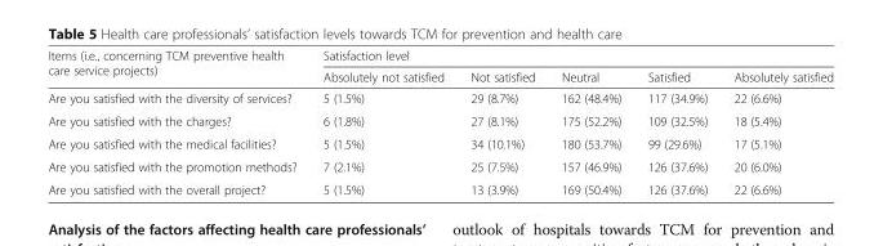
<table><thead><tr><td rowspan="2">Items (i.e., concerning TCM preventive health care service projects)</td><td colspan="5">Satisfaction level</td></tr><tr><td>Absolutely not satisfied</td><td>Not satisfied</td><td>Neutral</td><td>Satisfied</td><td>Absolutely satisfied</td></tr></thead><tbody><tr><td>Are you satisfied with the diversity of services?</td><td>5 (1.5%)</td><td>29 (8.7%)</td><td>162 (48.4%)</td><td>117 (34.9%)</td><td>22 (6.6%)</td></tr><tr><td>Are you satisfied with the charges?</td><td>6 (1.8%)</td><td>27 (8.1%)</td><td>175 (52.2%)</td><td>109 (32.5%)</td><td>18 (5.4%)</td></tr><tr><td>Are you satisfied with the medical facilities?</td><td>5 (1.5%)</td><td>34 (10.1%)</td><td>180 (53.7%)</td><td>99 (29.6%)</td><td>17 (5.1%)</td></tr><tr><td>Are you satisfied with the promotion methods?</td><td>7 (2.1%)</td><td>25 (7.5%)</td><td>157 (46.9%)</td><td>126 (37.6%)</td><td>20 (6.0%)</td></tr><tr><td>Are you satisfied with the overall project?</td><td>5 (1.5%)</td><td>13 (3.9%)</td><td>169 (50.4%)</td><td>126 (37.6%)</td><td>22 (6.6%)</td></tr></tbody></table>